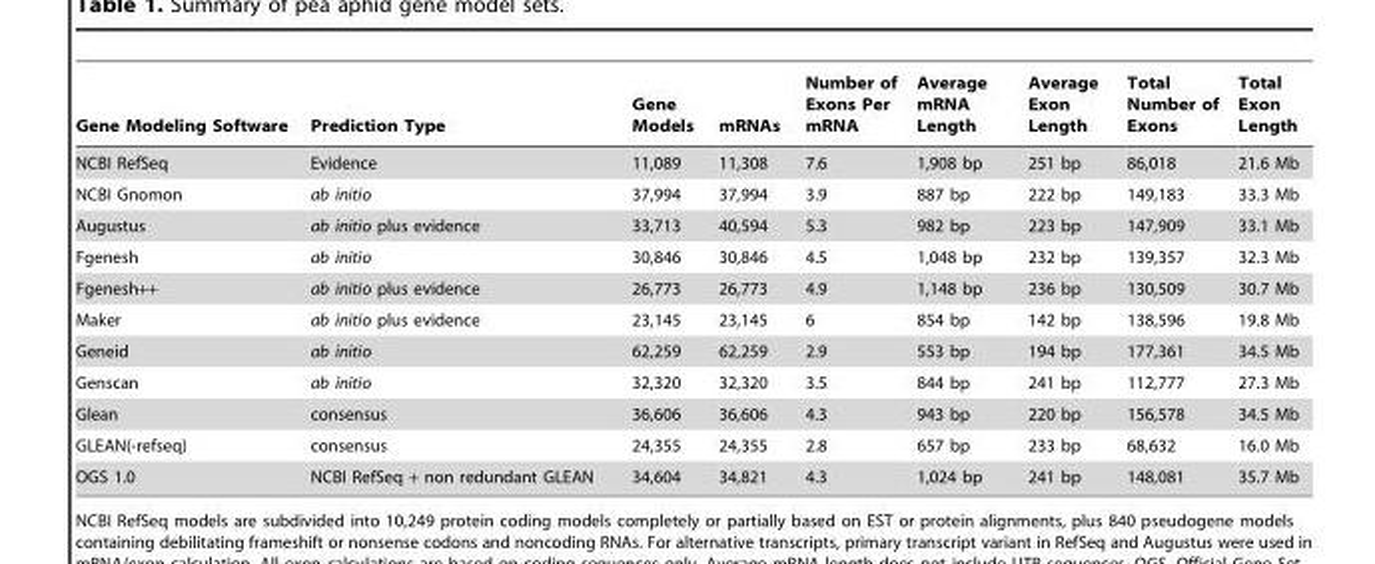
<table><thead><tr><td>Gene Modeling Software</td><td>Prediction Type</td><td>Gene Models</td><td>mRNAs</td><td>Number of Exons Per mRNA</td><td>Average mRNA Length</td><td>Average Exon Length</td><td>Total Number of Exons</td><td>Total Exon Length</td></tr></thead><tbody><tr><td>NCBI RefSeq</td><td>Evidence</td><td>11,089</td><td>11,308</td><td>7.6</td><td>1,908 bp</td><td>251 bp</td><td>86,018</td><td>21.6 Mb</td></tr><tr><td>NCBI Gnomon</td><td>ab initio</td><td>37,994</td><td>37,994</td><td>3.9</td><td>887 bp</td><td>222 bp</td><td>149,183</td><td>33.3 Mb</td></tr><tr><td>Augustus</td><td>ab initio plus evidence</td><td>33,713</td><td>40,594</td><td>5.3</td><td>982 bp</td><td>223 bp</td><td>147,909</td><td>33.1 Mb</td></tr><tr><td>Fgenesh</td><td>ab initio</td><td>30,846</td><td>30,846</td><td>4.5</td><td>1,048 bp</td><td>232 bp</td><td>139,357</td><td>32.3 Mb</td></tr><tr><td>Fgenesh++</td><td>ab initio plus evidence</td><td>26,773</td><td>26,773</td><td>4.9</td><td>1,148 bp</td><td>236 bp</td><td>130,509</td><td>30.7 Mb</td></tr><tr><td>Maker</td><td>ab initio plus evidence</td><td>23,145</td><td>23,145</td><td>6</td><td>854 bp</td><td>142 bp</td><td>138,596</td><td>19.8 Mb</td></tr><tr><td>Geneid</td><td>ab initio</td><td>62,259</td><td>62,259</td><td>2.9</td><td>553 bp</td><td>194 bp</td><td>177,361</td><td>34.5 Mb</td></tr><tr><td>Genscan</td><td>ab initio</td><td>32,320</td><td>32,320</td><td>3.5</td><td>844 bp</td><td>241 bp</td><td>112,777</td><td>27.3 Mb</td></tr><tr><td>Glean</td><td>consensus</td><td>36,606</td><td>36,606</td><td>4.3</td><td>943 bp</td><td>220 bp</td><td>156,578</td><td>34.5 Mb</td></tr><tr><td>GLEAN(-refseq)</td><td>consensus</td><td>24,355</td><td>24,355</td><td>2.8</td><td>657 bp</td><td>233 bp</td><td>68,632</td><td>16.0 Mb</td></tr><tr><td>OGS 1.0</td><td>NCBI RefSeq + non redundant GLEAN</td><td>34,604</td><td>34,821</td><td>4.3</td><td>1,024 bp</td><td>241 bp</td><td>148,081</td><td>35.7 Mb</td></tr></tbody></table>